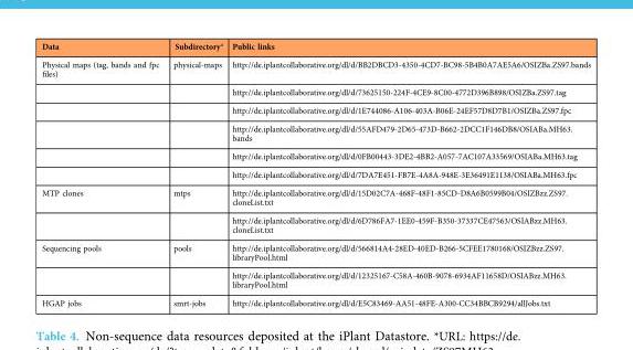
<table><thead><tr><td>Data</td><td>Subdirectory*</td><td>Public links</td></tr></thead><tbody><tr><td rowspan="6">Physical maps (tag, bands and fpc files)</td><td>physical-maps</td><td>http://de.iplantcollaborative.org/dl/d/BB2DBCD3-4350-4CD7-BC98-5B4B0A7AE5A6/OSIZBa.ZS97.bands</td></tr><tr><td></td><td>http://de.iplantcollaborative.org/dl/d/73625150-224F-4CE9-8C00-4772D396B898/OSIZBa.ZS97.tag</td></tr><tr><td></td><td>http://de.iplantcollaborative.org/dl/d/1E744086-A106-403A-B06E-24EF57D8D7B1/OSIZBa.ZS97.fpc</td></tr><tr><td></td><td>http://de.iplantcollaborative.org/dl/d/55AFD479-2D65-473D-B662-2DCC1F146DB8/OSIABa.MH63. bands</td></tr><tr><td></td><td>http://de.iplantcollaborative.org/dl/d/0FB00443-3DE2-4BB2-A057-7AC107A33569/OSIABa.MH63.tag</td></tr><tr><td></td><td>http://de.iplantcollaborative.org/dl/d/7DA7E451-FB7E-4A8A-948E-3E36491E1138/OSIABa.MH63.fpc</td></tr><tr><td rowspan="2">MTP clones</td><td>mtps</td><td>http://de.iplantcollaborative.org/dl/d/15D02C7A-468F-48F1-85CD-D8A6B0599B04/OSIZBzz.ZS97. cloneList.txt</td></tr><tr><td></td><td>http://de.iplantcollaborative.org/dl/d/6D786FA7-1EE0-459F-B350-37337CE47563/OSIABzz.MH63. cloneList.txt</td></tr><tr><td rowspan="2">Sequencing pools</td><td>pools</td><td>http://de.iplantcollaborative.org/dl/d/566814A4-28ED-40ED-B266-5CFEE1780168/OSIZBzz.ZS97. libraryPool.html</td></tr><tr><td></td><td>http://de.iplantcollaborative.org/dl/d/12325167-C58A-460B-9078-6934AF11658D/OSIABzz.MH63. libraryPool.html</td></tr><tr><td>HGAP jobs</td><td>smrt-jobs</td><td>http://de.iplantcollaborative.org/dl/d/E5C83469-AA51-48FE-A300-CC34BBCB9294/allJobs.txt</td></tr></tbody></table>